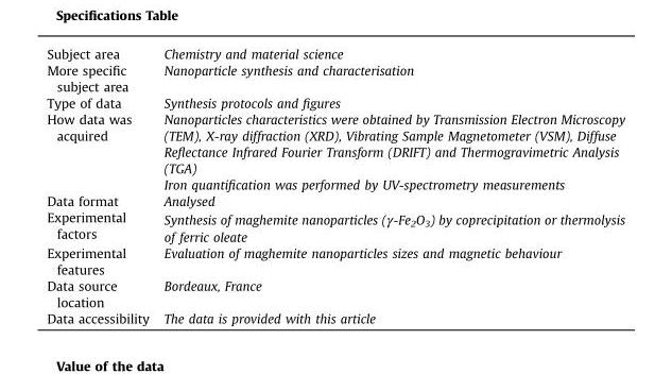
<table><tbody><tr><td>Subject area</td><td>Chemistry and material science</td></tr><tr><td>More specific subject area</td><td>Nanoparticle synthesis and characterisation</td></tr><tr><td>Type of data</td><td>Synthesis protocols and figures</td></tr><tr><td rowspan="2">How data was acquired</td><td>Nanoparticles characteristics were obtained by Transmission Electron Microscopy (TEM), X-ray diffraction (XRD), Vibrating Sample Magnetometer (VSM), Diffuse Reflectance Infrared Fourier Transform (DRIFT) and Thermogravimetric Analysis (TGA)</td></tr><tr><td>Iron quantification was performed by UV-spectrometry measurements</td></tr><tr><td>Data format</td><td>Analysed</td></tr><tr><td>Experimental factors</td><td>Synthesis of maghemite nanoparticles (γ-Fe<sub>2</sub>O<sub>3</sub>) by coprecipitation or thermolysis of ferric oleate</td></tr><tr><td>Experimental features</td><td>Evaluation of maghemite nanoparticles sizes and magnetic behaviour</td></tr><tr><td>Data source location</td><td>Bordeaux, France</td></tr><tr><td>Data accessibility</td><td>The data is provided with this article</td></tr></tbody></table>